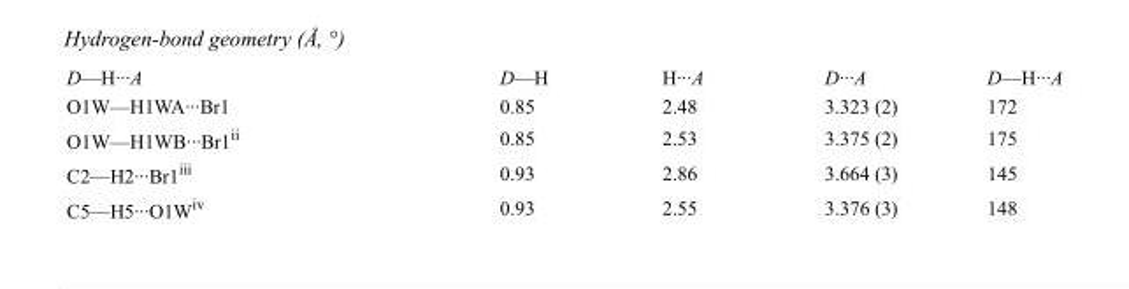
<table><tbody><tr><td>D—H···A</td><td>D—H</td><td>H···A</td><td>D···A</td><td>D—H···A</td></tr><tr><td>O1W—H1WA···Br1</td><td>0.85</td><td>2.48</td><td>3.323 (2)</td><td>172</td></tr><tr><td>O1W—H1WB···Br1<sup>ii</sup></td><td>0.85</td><td>2.53</td><td>3.375 (2)</td><td>175</td></tr><tr><td>C2—H2···Br1<sup>iii</sup></td><td>0.93</td><td>2.86</td><td>3.664 (3)</td><td>145</td></tr><tr><td>C5—H5···O1W<sup>iv</sup></td><td>0.93</td><td>2.55</td><td>3.376 (3)</td><td>148</td></tr></tbody></table>